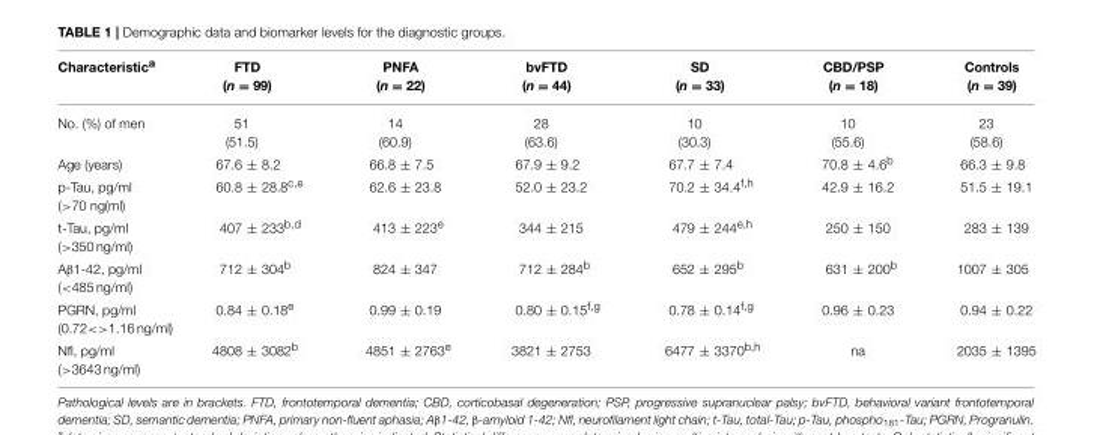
<table><thead><tr><td>Characteristic<sup>a</sup></td><td>FTD (n = 99)</td><td>PNFA (n = 22)</td><td>bvFTD (n = 44)</td><td>SD (n = 33)</td><td>CBD/PSP (n = 18)</td><td>Controls (n = 39)</td></tr></thead><tbody><tr><td>No. (%) of men</td><td>51 (51.5)</td><td>14 (60.9)</td><td>28 (63.6)</td><td>10 (30.3)</td><td>10 (55.6)</td><td>23 (58.6)</td></tr><tr><td>Age (years)</td><td>67.6 ± 8.2</td><td>66.8 ± 7.5</td><td>67.9 ± 9.2</td><td>67.7 ± 7.4</td><td>70.8 ± 4.6<sup>b</sup></td><td>66.3 ± 9.8</td></tr><tr><td>p-Tau, pg/ml (&gt;70 ng(ml)</td><td>60.8 ± 28.8<sup>c,e</sup></td><td>62.6 ± 23.8</td><td>52.0 ± 23.2</td><td>70.2 ± 34.4<sup>f,h</sup></td><td>42.9 ± 16.2</td><td>51.5 ± 19.1</td></tr><tr><td>t-Tau, pg/ml (&gt;350 ng/ml)</td><td>407 ± 233<sup>b,d</sup></td><td>413 ± 223<sup>e</sup></td><td>344 ± 215</td><td>479 ± 244<sup>e,h</sup></td><td>250 ± 150</td><td>283 ± 139</td></tr><tr><td>Aβ1-42, pg/ml (&lt;485 ng/ml)</td><td>712 ± 304<sup>b</sup></td><td>824 ± 347</td><td>712 ± 284<sup>b</sup></td><td>652 ± 295<sup>b</sup></td><td>631 ± 200<sup>b</sup></td><td>1007 ± 305</td></tr><tr><td>PGRN, pg/ml (0.72&lt;&gt;1.16 ng/ml)</td><td>0.84 ± 0.18<sup>e</sup></td><td>0.99 ± 0.19</td><td>0.80 ± 0.15<sup>f,g</sup></td><td>0.78 ± 0.14<sup>f,g</sup></td><td>0.96 ± 0.23</td><td>0.94 ± 0.22</td></tr><tr><td>Nfl, pg/ml (&gt;3643 ng/ml)</td><td>4808 ± 3082<sup>b</sup></td><td>4851 ± 2763<sup>e</sup></td><td>3821 ± 2753</td><td>6477 ± 3370<sup>b,h</sup></td><td>na</td><td>2035 ± 1395</td></tr></tbody></table>